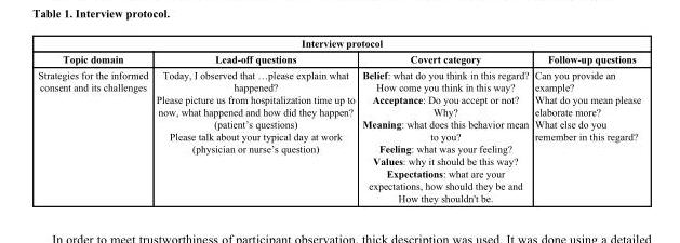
<table><thead><tr><td colspan="4">Interview protocol</td></tr><tr><td>Topic domain</td><td>Lead-off questions</td><td>Covert category</td><td>Follow-up questions</td></tr></thead><tbody><tr><td>Strategies for the informed consent and its challenges</td><td>Today, I observed that …please explain what happened? Please picture us from hospitalization time up to now, what happened and how did they happen? (patient’s questions) Please talk about your typical day at work (physician or nurse’s question)</td><td>Belief: what do you think in this regard? How come you think in this way? Acceptance: Do you accept or not? Why? Meaning: what does this behavior mean to you? Feeling: what was your feeling? Values: why it should be this way? Expectations: what are your expectations, how should they be and How they shouldn&#x27;t be.</td><td>Can you provide an example? What do you mean please elaborate more? What else do you remember in this regard?</td></tr></tbody></table>